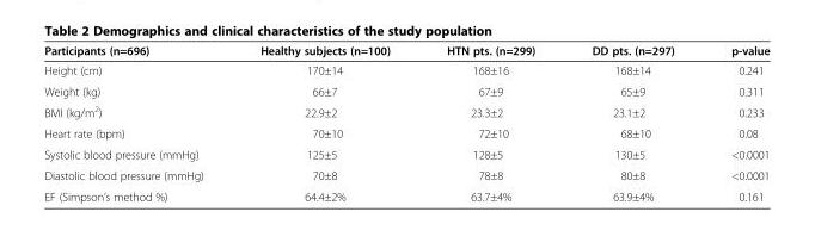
<table><thead><tr><td>Participants (n=696)</td><td>Healthy subjects (n=100)</td><td>HTN pts. (n=299)</td><td>DD pts. (n=297)</td><td>p-value</td></tr></thead><tbody><tr><td>Height (cm)</td><td>170±14</td><td>168±16</td><td>168±14</td><td>0.241</td></tr><tr><td>Weight (kg)</td><td>66±7</td><td>67±9</td><td>65±9</td><td>0.311</td></tr><tr><td>BMI (kg/m<sup>2</sup>)</td><td>22.9±2</td><td>23.3±2</td><td>23.1±2</td><td>0.233</td></tr><tr><td>Heart rate (bpm)</td><td>70±10</td><td>72±10</td><td>68±10</td><td>0.08</td></tr><tr><td>Systolic blood pressure (mmHg)</td><td>125±5</td><td>128±5</td><td>130±5</td><td>&lt;0.0001</td></tr><tr><td>Diastolic blood pressure (mmHg)</td><td>70±8</td><td>78±8</td><td>80±8</td><td>&lt;0.0001</td></tr><tr><td>EF (Simpson’s method %)</td><td>64.4±2%</td><td>63.7±4%</td><td>63.9±4%</td><td>0.161</td></tr></tbody></table>